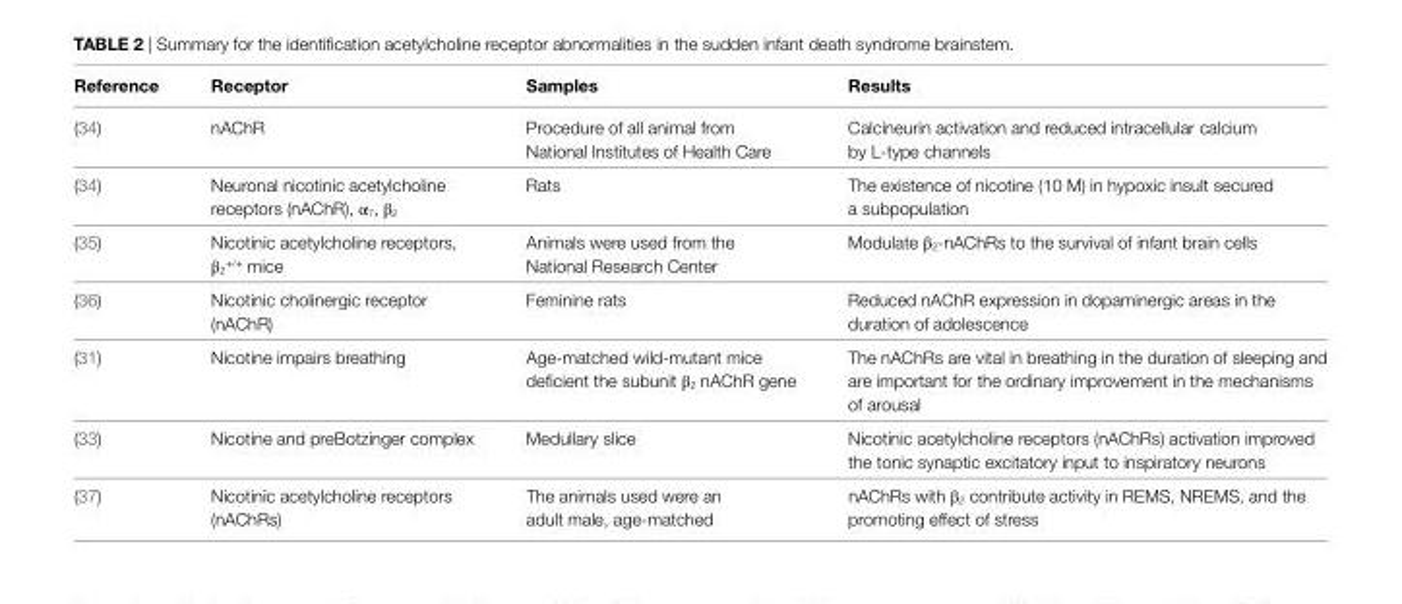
<table><thead><tr><td>Reference</td><td>Receptor</td><td>Samples</td><td>Results</td></tr></thead><tbody><tr><td>(34)</td><td>nAChR</td><td>Procedure of all animal from National Institutes of Health Care</td><td>Calcineurin activation and reduced intracellular calcium by L-type channels</td></tr><tr><td>(34)</td><td>Neuronal nicotinic acetylcholine receptors (nAChR), α<sub>7</sub>, β<sub>2</sub></td><td>Rats</td><td>The existence of nicotine (10 M) in hypoxic insult secured a subpopulation</td></tr><tr><td>(35)</td><td>Nicotinic acetylcholine receptors, β<sub>2</sub><sup>+/+</sup> mice</td><td>Animals were used from the National Research Center</td><td>Modulate β<sub>2</sub>-nAChRs to the survival of infant brain cells</td></tr><tr><td>(36)</td><td>Nicotinic cholinergic receptor (nAChR)</td><td>Feminine rats</td><td>Reduced nAChR expression in dopaminergic areas in the duration of adolescence</td></tr><tr><td>(31)</td><td>Nicotine impairs breathing</td><td>Age-matched wild-mutant mice deficient the subunit β<sub>2</sub> nAChR gene</td><td>The nAChRs are vital in breathing in the duration of sleeping and are important for the ordinary improvement in the mechanisms of arousal</td></tr><tr><td>(33)</td><td>Nicotine and preBotzinger complex</td><td>Medullary slice</td><td>Nicotinic acetylcholine receptors (nAChRs) activation improved the tonic synaptic excitatory input to inspiratory neurons</td></tr><tr><td>(37)</td><td>Nicotinic acetylcholine receptors (nAChRs)</td><td>The animals used were an adult male, age-matched</td><td>nAChRs with β<sub>2</sub> contribute activity in REMS, NREMS, and the promoting effect of stress</td></tr></tbody></table>